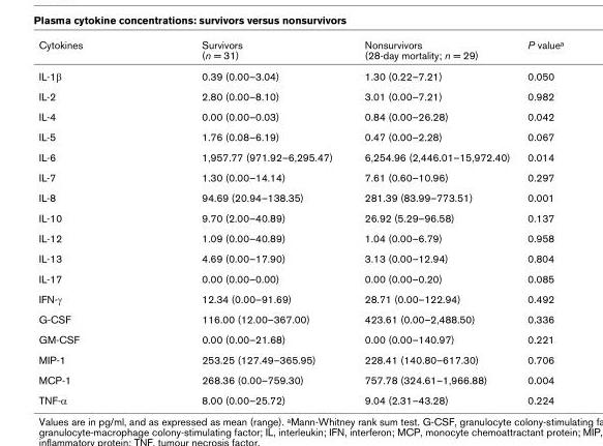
<table><thead><tr><td>Cytokines</td><td>Survivors (n = 31)</td><td>Nonsurvivors (28-day mortality; n = 29)</td><td>P value<sup>a</sup></td></tr></thead><tbody><tr><td>IL-1β</td><td>0.39 (0.00–3.04)</td><td>1.30 (0.22–7.21)</td><td>0.050</td></tr><tr><td>IL-2</td><td>2.80 (0.00–8.10)</td><td>3.01 (0.00–7.21)</td><td>0.982</td></tr><tr><td>IL-4</td><td>0.00 (0.00–0.03)</td><td>0.84 (0.00–26.28)</td><td>0.042</td></tr><tr><td>IL-5</td><td>1.76 (0.08–6.19)</td><td>0.47 (0.00–2.28)</td><td>0.067</td></tr><tr><td>IL-6</td><td>1,957.77 (971.92–6,295.47)</td><td>6,254.96 (2,446.01–15,972.40)</td><td>0.014</td></tr><tr><td>IL-7</td><td>1.30 (0.00–14.14)</td><td>7.61 (0.60–10.96)</td><td>0.297</td></tr><tr><td>IL-8</td><td>94.69 (20.94–138.35)</td><td>281.39 (83.99–773.51)</td><td>0.001</td></tr><tr><td>IL-10</td><td>9.70 (2.00–40.89)</td><td>26.92 (5.29–96.58)</td><td>0.137</td></tr><tr><td>IL-12</td><td>1.09 (0.00–40.89)</td><td>1.04 (0.00–6.79)</td><td>0.958</td></tr><tr><td>IL-13</td><td>4.69 (0.00–17.90)</td><td>3.13 (0.00–12.94)</td><td>0.804</td></tr><tr><td>IL-17</td><td>0.00 (0.00–0.00)</td><td>0.00 (0.00–0.20)</td><td>0.085</td></tr><tr><td>IFN-γ</td><td>12.34 (0.00–91.69)</td><td>28.71 (0.00–122.94)</td><td>0.492</td></tr><tr><td>G-CSF</td><td>116.00 (12.00–367.00)</td><td>423.61 (0.00–2,488.50)</td><td>0.336</td></tr><tr><td>GM-CSF</td><td>0.00 (0.00–21.68)</td><td>0.00 (0.00–140.97)</td><td>0.221</td></tr><tr><td>MIP-1</td><td>253.25 (127.49–365.95)</td><td>228.41 (140.80–617.30)</td><td>0.706</td></tr><tr><td>MCP-1</td><td>268.36 (0.00–759.30)</td><td>757.78 (324.61–1,966.88)</td><td>0.004</td></tr><tr><td>TNF-α</td><td>8.00 (0.00–25.72)</td><td>9.04 (2.31–43.28)</td><td>0.224</td></tr></tbody></table>